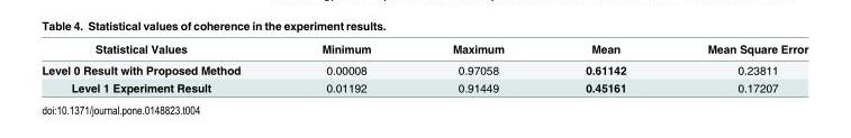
<table><thead><tr><td>Statistical Values</td><td>Minimum</td><td>Maximum</td><td>Mean</td><td>Mean Square Error</td></tr></thead><tbody><tr><td>Level 0 Result with Proposed Method</td><td>0.00008</td><td>0.97058</td><td>0.61142</td><td>0.23811</td></tr><tr><td>Level 1 Experiment Result</td><td>0.01192</td><td>0.91449</td><td>0.45161</td><td>0.17207</td></tr></tbody></table>